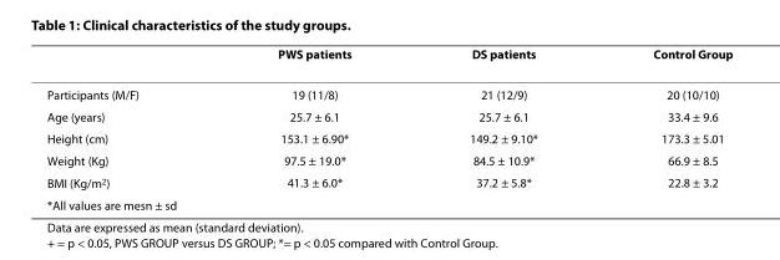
<table><thead><tr><td></td><td>PWS patients</td><td>DS patients</td><td>Control Group</td></tr></thead><tbody><tr><td>Participants (M/F)</td><td>19 (11/8)</td><td>21 (12/9)</td><td>20 (10/10)</td></tr><tr><td>Age (years)</td><td>25.7 ± 6.1</td><td>25.7 ± 6.1</td><td>33.4 ± 9.6</td></tr><tr><td>Height (cm)</td><td>153.1 ± 6.90*</td><td>149.2 ± 9.10*</td><td>173.3 ± 5.01</td></tr><tr><td>Weight (Kg)</td><td>97.5 ± 19.0*</td><td>84.5 ± 10.9*</td><td>66.9 ± 8.5</td></tr><tr><td>BMI (Kg/m<sup>2</sup>)</td><td>41.3 ± 6.0*</td><td>37.2 ± 5.8*</td><td>22.8 ± 3.2</td></tr><tr><td>*All values are mesn ± sd</td><td></td><td></td><td></td></tr></tbody></table>